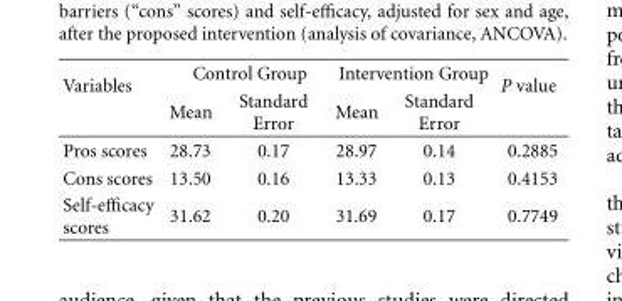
<table><thead><tr><td rowspan="2">Variables</td><td colspan="2">Control Group</td><td colspan="2">Intervention Group</td><td rowspan="2">P value</td></tr><tr><td>Mean</td><td>Standard Error</td><td>Mean</td><td>Standard Error</td></tr></thead><tbody><tr><td>Pros scores</td><td>28.73</td><td>0.17</td><td>28.97</td><td>0.14</td><td>0.2885</td></tr><tr><td>Cons scores</td><td>13.50</td><td>0.16</td><td>13.33</td><td>0.13</td><td>0.4153</td></tr><tr><td>Self-efficacy scores</td><td>31.62</td><td>0.20</td><td>31.69</td><td>0.17</td><td>0.7749</td></tr></tbody></table>